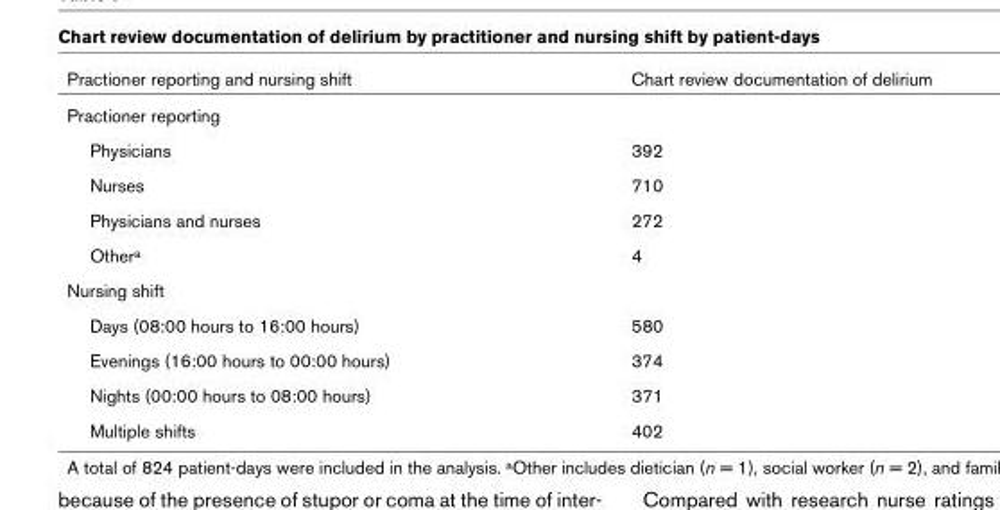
<table><thead><tr><td>Practioner reporting and nursing shift</td><td>Chart review documentation of delirium</td></tr></thead><tbody><tr><td colspan="2">Practioner reporting</td></tr><tr><td>Physicians</td><td>392</td></tr><tr><td>Nurses</td><td>710</td></tr><tr><td>Physicians and nurses</td><td>272</td></tr><tr><td>Othera</td><td>4</td></tr><tr><td colspan="2">Nursing shift</td></tr><tr><td>Days (08:00 hours to 16:00 hours)</td><td>580</td></tr><tr><td>Evenings (16:00 hours to 00:00 hours)</td><td>374</td></tr><tr><td>Nights (00:00 hours to 08:00 hours)</td><td>371</td></tr><tr><td>Multiple shifts</td><td>402</td></tr></tbody></table>